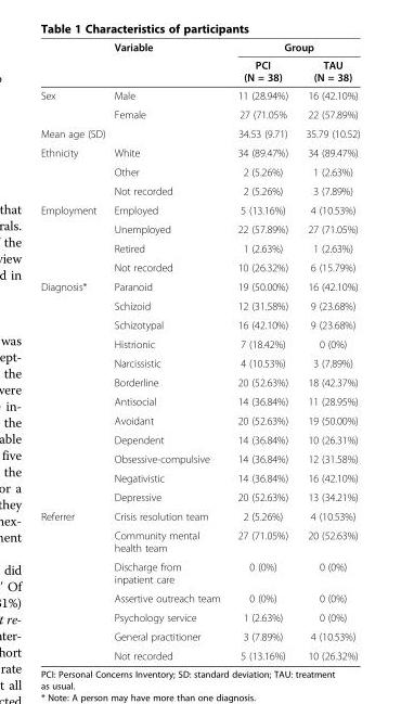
<table><thead><tr><td rowspan="2"></td><td rowspan="2">Variable</td><td colspan="2">Group</td></tr><tr><td>PCI (N = 38)</td><td>TAU (N = 38)</td></tr></thead><tbody><tr><td rowspan="2">Sex</td><td>Male</td><td>11 (28.94%)</td><td>16 (42.10%)</td></tr><tr><td>Female</td><td>27 (71.05%</td><td>22 (57.89%)</td></tr><tr><td colspan="2">Mean age (SD)</td><td>34.53 (9.71)</td><td>35.79 (10.52)</td></tr><tr><td rowspan="3">Ethnicity</td><td>White</td><td>34 (89.47%)</td><td>34 (89.47%)</td></tr><tr><td>Other</td><td>2 (5.26%)</td><td>1 (2.63%)</td></tr><tr><td>Not recorded</td><td>2 (5.26%)</td><td>3 (7.89%)</td></tr><tr><td rowspan="4">Employment</td><td>Employed</td><td>5 (13.16%)</td><td>4 (10.53%)</td></tr><tr><td>Unemployed</td><td>22 (57.89%)</td><td>27 (71.05%)</td></tr><tr><td>Retired</td><td>1 (2.63%)</td><td>1 (2.63%)</td></tr><tr><td>Not recorded</td><td>10 (26.32%)</td><td>6 (15.79%)</td></tr><tr><td rowspan="12">Diagnosis*</td><td>Paranoid</td><td>19 (50.00%)</td><td>16 (42.10%)</td></tr><tr><td>Schizoid</td><td>12 (31.58%)</td><td>9 (23.68%)</td></tr><tr><td>Schizotypal</td><td>16 (42.10%)</td><td>9 (23.68%)</td></tr><tr><td>Histrionic</td><td>7 (18.42%)</td><td>0 (0%)</td></tr><tr><td>Narcissistic</td><td>4 (10.53%)</td><td>3 (7.89%)</td></tr><tr><td>Borderline</td><td>20 (52.63%)</td><td>18 (42.37%)</td></tr><tr><td>Antisocial</td><td>14 (36.84%)</td><td>11 (28.95%)</td></tr><tr><td>Avoidant</td><td>20 (52.63%)</td><td>19 (50.00%)</td></tr><tr><td>Dependent</td><td>14 (36.84%)</td><td>10 (26.31%)</td></tr><tr><td>Obsessive-compulsive</td><td>14 (36.84%)</td><td>12 (31.58%)</td></tr><tr><td>Negativistic</td><td>14 (36.84%)</td><td>16 (42.10%)</td></tr><tr><td>Depressive</td><td>20 (52.63%)</td><td>13 (34.21%)</td></tr><tr><td rowspan="7">Referrer</td><td>Crisis resolution team</td><td>2 (5.26%)</td><td>4 (10.53%)</td></tr><tr><td>Community mental health team</td><td>27 (71.05%)</td><td>20 (52.63%)</td></tr><tr><td>Discharge from inpatient care</td><td>0 (0%)</td><td>0 (0%)</td></tr><tr><td>Assertive outreach team</td><td>0 (0%)</td><td>0 (0%)</td></tr><tr><td>Psychology service</td><td>1 (2.63%)</td><td>0 (0%)</td></tr><tr><td>General practitioner</td><td>3 (7.89%)</td><td>4 (10.53%)</td></tr><tr><td>Not recorded</td><td>5 (13.16%)</td><td>10 (26.32%)</td></tr></tbody></table>